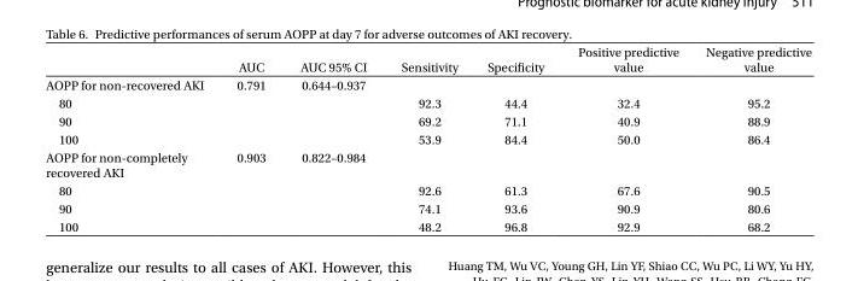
<table><thead><tr><td></td><td>AUC</td><td>AUC 95% CI</td><td>Sensitivity</td><td>Specificity</td><td>Positive predictive value</td><td>Negative predictive value</td></tr></thead><tbody><tr><td>AOPP for non-recovered AKI</td><td>0.791</td><td>0.644–0.937</td><td></td><td></td><td></td><td></td></tr><tr><td>80</td><td></td><td></td><td>92.3</td><td>44.4</td><td>32.4</td><td>95.2</td></tr><tr><td>90</td><td></td><td></td><td>69.2</td><td>71.1</td><td>40.9</td><td>88.9</td></tr><tr><td>100</td><td></td><td></td><td>53.9</td><td>84.4</td><td>50.0</td><td>86.4</td></tr><tr><td>AOPP for non-completely recovered AKI</td><td>0.903</td><td>0.822–0.984</td><td></td><td></td><td></td><td></td></tr><tr><td>80</td><td></td><td></td><td>92.6</td><td>61.3</td><td>67.6</td><td>90.5</td></tr><tr><td>90</td><td></td><td></td><td>74.1</td><td>93.6</td><td>90.9</td><td>80.6</td></tr><tr><td>100</td><td></td><td></td><td>48.2</td><td>96.8</td><td>92.9</td><td>68.2</td></tr></tbody></table>